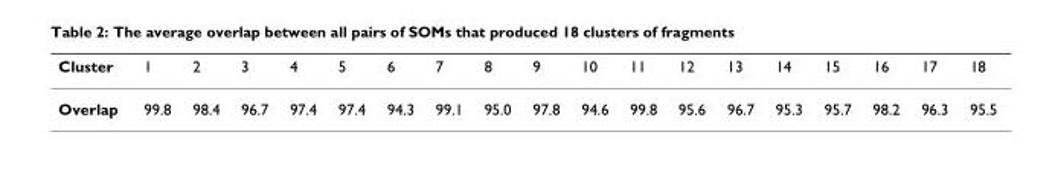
<table><thead><tr><td>Cluster</td><td>1</td><td>2</td><td>3</td><td>4</td><td>5</td><td>6</td><td>7</td><td>8</td><td>9</td><td>10</td><td>11</td><td>12</td><td>13</td><td>14</td><td>15</td><td>16</td><td>17</td><td>18</td></tr></thead><tbody><tr><td>Overlap</td><td>99.8</td><td>98.4</td><td>96.7</td><td>97.4</td><td>97.4</td><td>94.3</td><td>99.1</td><td>95.0</td><td>97.8</td><td>94.6</td><td>99.8</td><td>95.6</td><td>96.7</td><td>95.3</td><td>95.7</td><td>98.2</td><td>96.3</td><td>95.5</td></tr></tbody></table>